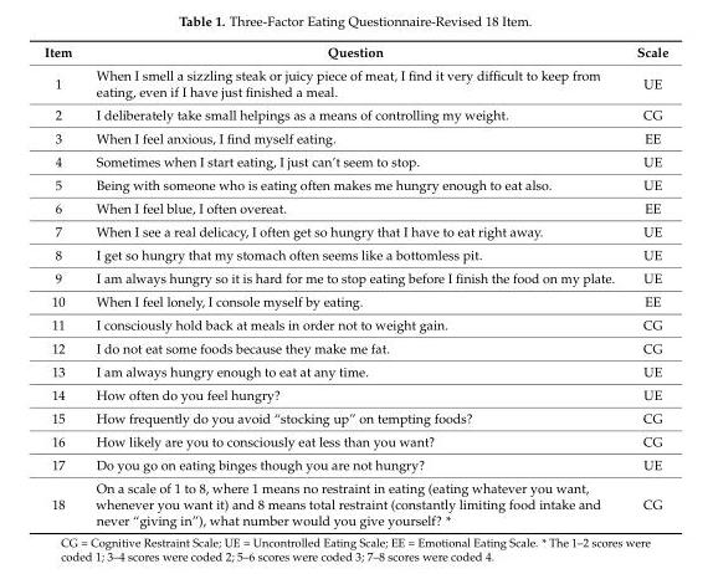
<table><thead><tr><td>Item</td><td>Question</td><td>Scale</td></tr></thead><tbody><tr><td>1</td><td>When I smell a sizzling steak or juicy piece of meat, I find it very difficult to keep from eating, even if I have just finished a meal.</td><td>UE</td></tr><tr><td>2</td><td>I deliberately take small helpings as a means of controlling my weight.</td><td>CG</td></tr><tr><td>3</td><td>When I feel anxious, I find myself eating.</td><td>EE</td></tr><tr><td>4</td><td>Sometimes when I start eating, I just can’t seem to stop.</td><td>UE</td></tr><tr><td>5</td><td>Being with someone who is eating often makes me hungry enough to eat also.</td><td>UE</td></tr><tr><td>6</td><td>When I feel blue, I often overeat.</td><td>EE</td></tr><tr><td>7</td><td>When I see a real delicacy, I often get so hungry that I have to eat right away.</td><td>UE</td></tr><tr><td>8</td><td>I get so hungry that my stomach often seems like a bottomless pit.</td><td>UE</td></tr><tr><td>9</td><td>I am always hungry so it is hard for me to stop eating before I finish the food on my plate.</td><td>UE</td></tr><tr><td>10</td><td>When I feel lonely, I console myself by eating.</td><td>EE</td></tr><tr><td>11</td><td>I consciously hold back at meals in order not to weight gain.</td><td>CG</td></tr><tr><td>12</td><td>I do not eat some foods because they make me fat.</td><td>CG</td></tr><tr><td>13</td><td>I am always hungry enough to eat at any time.</td><td>UE</td></tr><tr><td>14</td><td>How often do you feel hungry?</td><td>UE</td></tr><tr><td>15</td><td>How frequently do you avoid “stocking up” on tempting foods?</td><td>CG</td></tr><tr><td>16</td><td>How likely are you to consciously eat less than you want?</td><td>CG</td></tr><tr><td>17</td><td>Do you go on eating binges though you are not hungry?</td><td>UE</td></tr><tr><td>18</td><td>On a scale of 1 to 8, where 1 means no restraint in eating (eating whatever you want, whenever you want it) and 8 means total restraint (constantly limiting food intake and never “giving in”), what number would you give yourself? *</td><td>CG</td></tr></tbody></table>